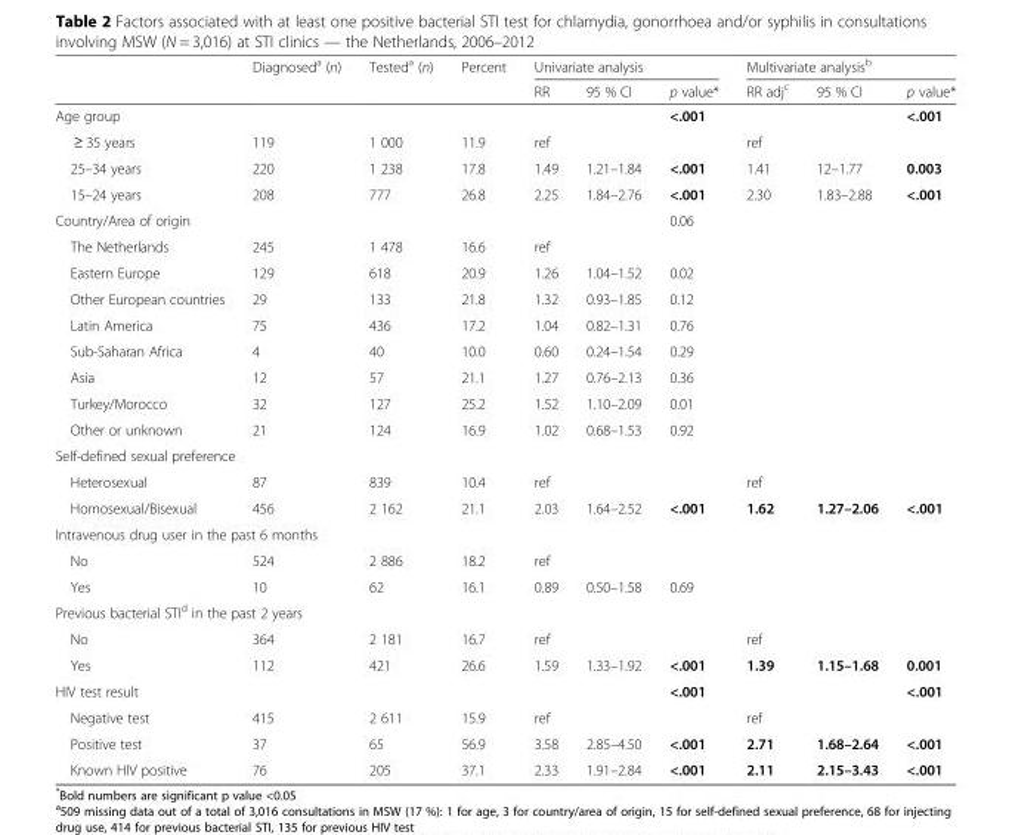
<table><thead><tr><td rowspan="2"></td><td rowspan="2">Diagnosed<sup>a</sup> (n)</td><td rowspan="2">Tested<sup>a</sup> (n)</td><td rowspan="2">Percent</td><td colspan="3">Univariate analysis</td><td colspan="3">Multivariate analysis<sup>b</sup></td></tr><tr><td>RR</td><td>95 % CI</td><td>p value*</td><td>RR adj<sup>c</sup></td><td>95 % CI</td><td>p value*</td></tr></thead><tbody><tr><td>Age group</td><td></td><td></td><td></td><td></td><td></td><td>&lt;.001</td><td></td><td></td><td>&lt;.001</td></tr><tr><td>≥ 35 years</td><td>119</td><td>1 000</td><td>11.9</td><td>ref</td><td></td><td></td><td>ref</td><td></td><td></td></tr><tr><td>25–34 years</td><td>220</td><td>1 238</td><td>17.8</td><td>1.49</td><td>1.21–1.84</td><td>&lt;.001</td><td>1.41</td><td>12–1.77</td><td>0.003</td></tr><tr><td>15–24 years</td><td>208</td><td>777</td><td>26.8</td><td>2.25</td><td>1.84–2.76</td><td>&lt;.001</td><td>2.30</td><td>1.83–2.88</td><td>&lt;.001</td></tr><tr><td>Country/Area of origin</td><td></td><td></td><td></td><td></td><td></td><td>0.06</td><td></td><td></td><td></td></tr><tr><td>The Netherlands</td><td>245</td><td>1 478</td><td>16.6</td><td>ref</td><td></td><td></td><td></td><td></td><td></td></tr><tr><td>Eastern Europe</td><td>129</td><td>618</td><td>20.9</td><td>1.26</td><td>1.04–1.52</td><td>0.02</td><td></td><td></td><td></td></tr><tr><td>Other European countries</td><td>29</td><td>133</td><td>21.8</td><td>1.32</td><td>0.93–1.85</td><td>0.12</td><td></td><td></td><td></td></tr><tr><td>Latin America</td><td>75</td><td>436</td><td>17.2</td><td>1.04</td><td>0.82–1.31</td><td>0.76</td><td></td><td></td><td></td></tr><tr><td>Sub-Saharan Africa</td><td>4</td><td>40</td><td>10.0</td><td>0.60</td><td>0.24–1.54</td><td>0.29</td><td></td><td></td><td></td></tr><tr><td>Asia</td><td>12</td><td>57</td><td>21.1</td><td>1.27</td><td>0.76–2.13</td><td>0.36</td><td></td><td></td><td></td></tr><tr><td>Turkey/Morocco</td><td>32</td><td>127</td><td>25.2</td><td>1.52</td><td>1.10–2.09</td><td>0.01</td><td></td><td></td><td></td></tr><tr><td>Other or unknown</td><td>21</td><td>124</td><td>16.9</td><td>1.02</td><td>0.68–1.53</td><td>0.92</td><td></td><td></td><td></td></tr><tr><td colspan="10">Self-defined sexual preference</td></tr><tr><td>Heterosexual</td><td>87</td><td>839</td><td>10.4</td><td>ref</td><td></td><td></td><td>ref</td><td></td><td></td></tr><tr><td>Homosexual/Bisexual</td><td>456</td><td>2 162</td><td>21.1</td><td>2.03</td><td>1.64–2.52</td><td>&lt;.001</td><td>1.62</td><td>1.27–2.06</td><td>&lt;.001</td></tr><tr><td colspan="10">Intravenous drug user in the past 6 months</td></tr><tr><td>No</td><td>524</td><td>2 886</td><td>18.2</td><td>ref</td><td></td><td></td><td></td><td></td><td></td></tr><tr><td>Yes</td><td>10</td><td>62</td><td>16.1</td><td>0.89</td><td>0.50–1.58</td><td>0.69</td><td></td><td></td><td></td></tr><tr><td colspan="10">Previous bacterial STI<sup>d</sup> in the past 2 years</td></tr><tr><td>No</td><td>364</td><td>2 181</td><td>16.7</td><td>ref</td><td></td><td></td><td>ref</td><td></td><td></td></tr><tr><td>Yes</td><td>112</td><td>421</td><td>26.6</td><td>1.59</td><td>1.33–1.92</td><td>&lt;.001</td><td>1.39</td><td>1.15–1.68</td><td>0.001</td></tr><tr><td>HIV test result</td><td></td><td></td><td></td><td></td><td></td><td>&lt;.001</td><td></td><td></td><td>&lt;.001</td></tr><tr><td>Negative test</td><td>415</td><td>2 611</td><td>15.9</td><td>ref</td><td></td><td></td><td>ref</td><td></td><td></td></tr><tr><td>Positive test</td><td>37</td><td>65</td><td>56.9</td><td>3.58</td><td>2.85–4.50</td><td>&lt;.001</td><td>2.71</td><td>1.68–2.64</td><td>&lt;.001</td></tr><tr><td>Known HIV positive</td><td>76</td><td>205</td><td>37.1</td><td>2.33</td><td>1.91–2.84</td><td>&lt;.001</td><td>2.11</td><td>2.15–3.43</td><td>&lt;.001</td></tr></tbody></table>